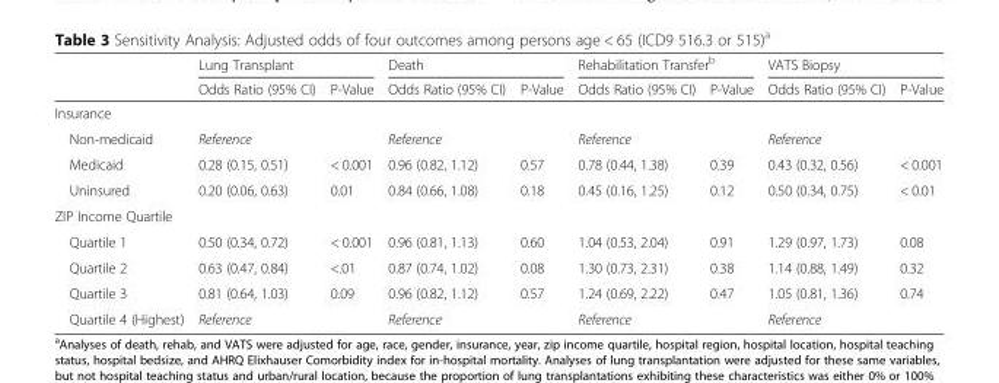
<table><thead><tr><td rowspan="2"></td><td colspan="2">Lung Transplant</td><td colspan="2">Death</td><td colspan="2">Rehabilitation Transfer<sup>b</sup></td><td colspan="2">VATS Biopsy</td></tr><tr><td>Odds Ratio (95% CI)</td><td>P-Value</td><td>Odds Ratio (95% CI)</td><td>P-Value</td><td>Odds Ratio (95% CI)</td><td>P-Value</td><td>Odds Ratio (95% CI)</td><td>P-Value</td></tr></thead><tbody><tr><td colspan="9">Insurance</td></tr><tr><td>Non-medicaid</td><td colspan="2">Reference</td><td>Reference</td><td></td><td>Reference</td><td></td><td>Reference</td><td></td></tr><tr><td>Medicaid</td><td>0.28 (0.15, 0.51)</td><td>&lt; 0.001</td><td>0.96 (0.82, 1.12)</td><td>0.57</td><td>0.78 (0.44, 1.38)</td><td>0.39</td><td>0.43 (0.32, 0.56)</td><td>&lt; 0.001</td></tr><tr><td>Uninsured</td><td>0.20 (0.06, 0.63)</td><td>0.01</td><td>0.84 (0.66, 1.08)</td><td>0.18</td><td>0.45 (0.16, 1.25)</td><td>0.12</td><td>0.50 (0.34, 0.75)</td><td>&lt; 0.01</td></tr><tr><td colspan="9">ZIP Income Quartile</td></tr><tr><td>Quartile 1</td><td>0.50 (0.34, 0.72)</td><td>&lt; 0.001</td><td>0.96 (0.81, 1.13)</td><td>0.60</td><td>1.04 (0.53, 2.04)</td><td>0.91</td><td>1.29 (0.97, 1.73)</td><td>0.08</td></tr><tr><td>Quartile 2</td><td>0.63 (0.47, 0.84)</td><td>&lt;.01</td><td>0.87 (0.74, 1.02)</td><td>0.08</td><td>1.30 (0.73, 2.31)</td><td>0.38</td><td>1.14 (0.88, 1.49)</td><td>0.32</td></tr><tr><td>Quartile 3</td><td>0.81 (0.64, 1.03)</td><td>0.09</td><td>0.96 (0.82, 1.12)</td><td>0.57</td><td>1.24 (0.69, 2.22)</td><td>0.47</td><td>1.05 (0.81, 1.36)</td><td>0.74</td></tr><tr><td>Quartile 4 (Highest)</td><td>Reference</td><td></td><td>Reference</td><td></td><td>Reference</td><td></td><td>Reference</td><td></td></tr></tbody></table>